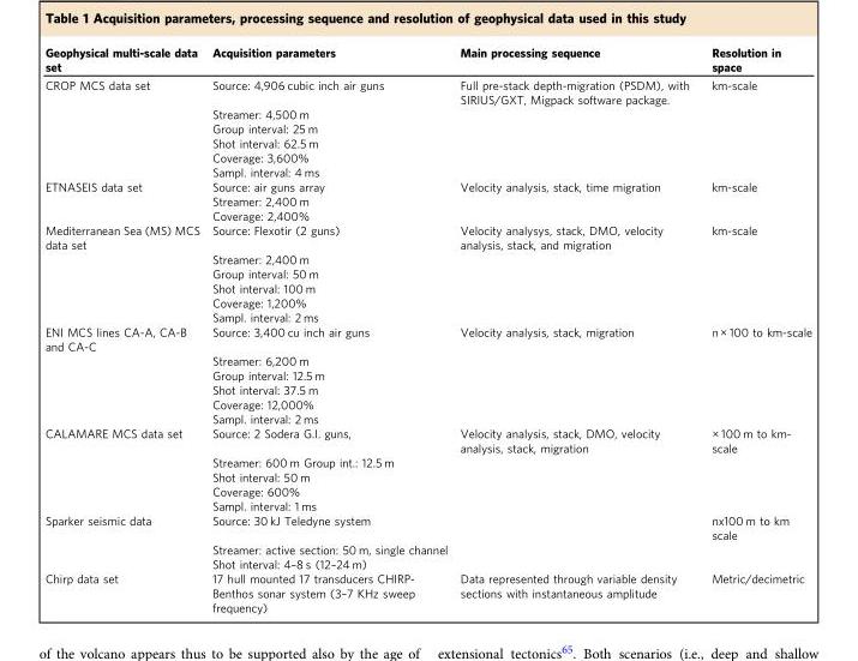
<table><thead><tr><td>Geophysical multi-scale data set</td><td>Acquisition parameters</td><td>Main processing sequence</td><td>Resolution in space</td></tr></thead><tbody><tr><td rowspan="6">CROP MCS data set</td><td>Source: 4,906 cubic inch air guns</td><td>Full pre-stack depth-migration (PSDM), with SIRIUS/GXT, Migpack software package.</td><td>km-scale</td></tr><tr><td>Streamer: 4,500 m</td><td></td><td></td></tr><tr><td>Group interval: 25 m</td><td></td><td></td></tr><tr><td>Shot interval: 62.5 m</td><td></td><td></td></tr><tr><td>Coverage: 3,600%</td><td></td><td></td></tr><tr><td>Sampl. interval: 4 ms</td><td></td><td></td></tr><tr><td rowspan="3">ETNASEIS data set</td><td>Source: air guns array</td><td>Velocity analysis, stack, time migration</td><td>km-scale</td></tr><tr><td>Streamer: 2,400 m</td><td></td><td></td></tr><tr><td>Coverage: 2,400%</td><td></td><td></td></tr><tr><td rowspan="6">Mediterranean Sea (MS) MCS data set</td><td>Source: Flexotir (2 guns)</td><td>Velocity analysys, stack, DMO, velocity analysis, stack, and migration</td><td>km-scale</td></tr><tr><td>Streamer: 2,400 m</td><td></td><td></td></tr><tr><td>Group interval: 50 m</td><td></td><td></td></tr><tr><td>Shot interval: 100 m</td><td></td><td></td></tr><tr><td>Coverage: 1,200%</td><td></td><td></td></tr><tr><td>Sampl. interval: 2 ms</td><td></td><td></td></tr><tr><td rowspan="6">ENI MCS lines CA-A, CA-B and CA-C</td><td>Source: 3,400 cu inch air guns</td><td>Velocity analysis, stack, migration</td><td>n × 100 to km-scale</td></tr><tr><td>Streamer: 6,200 m</td><td></td><td></td></tr><tr><td>Group interval: 12.5 m</td><td></td><td></td></tr><tr><td>Shot interval: 37.5 m</td><td></td><td></td></tr><tr><td>Coverage: 12,000%</td><td></td><td></td></tr><tr><td>Sampl. interval: 2 ms</td><td></td><td></td></tr><tr><td rowspan="5">CALAMARE MCS data set</td><td>Source: 2 Sodera G.I. guns,</td><td>Velocity analysis, stack, DMO, velocity analysis, stack, migration</td><td>× 100 m to km- scale</td></tr><tr><td>Streamer: 600 m Group int.: 12.5 m</td><td></td><td></td></tr><tr><td>Shot interval: 50 m</td><td></td><td></td></tr><tr><td>Coverage: 600%</td><td></td><td></td></tr><tr><td>Sampl. interval: 1 ms</td><td></td><td></td></tr><tr><td rowspan="3">Sparker seismic data</td><td>Source: 30 kJ Teledyne system</td><td></td><td>nx100 m to km scale</td></tr><tr><td>Streamer: active section: 50 m, single channel</td><td></td><td></td></tr><tr><td>Shot interval: 4–8 s (12–24 m)</td><td></td><td></td></tr><tr><td>Chirp data set</td><td>17 hull mounted 17 transducers CHIRP- Benthos sonar system (3–7 KHz sweep frequency)</td><td>Data represented through variable density sections with instantaneous amplitude</td><td>Metric/decimetric</td></tr></tbody></table>